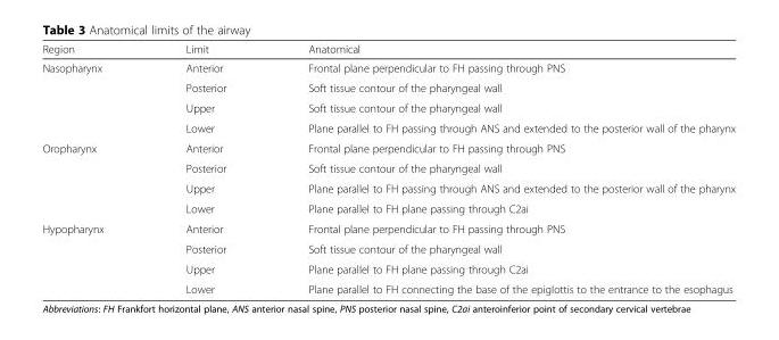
<table><thead><tr><td>Region</td><td>Limit</td><td>Anatomical</td></tr></thead><tbody><tr><td rowspan="4">Nasopharynx</td><td>Anterior</td><td>Frontal plane perpendicular to FH passing through PNS</td></tr><tr><td>Posterior</td><td>Soft tissue contour of the pharyngeal wall</td></tr><tr><td>Upper</td><td>Soft tissue contour of the pharyngeal wall</td></tr><tr><td>Lower</td><td>Plane parallel to FH passing through ANS and extended to the posterior wall of the pharynx</td></tr><tr><td rowspan="4">Oropharynx</td><td>Anterior</td><td>Frontal plane perpendicular to FH passing through PNS</td></tr><tr><td>Posterior</td><td>Soft tissue contour of the pharyngeal wall</td></tr><tr><td>Upper</td><td>Plane parallel to FH passing through ANS and extended to the posterior wall of the pharynx</td></tr><tr><td>Lower</td><td>Plane parallel to FH plane passing through C2ai</td></tr><tr><td rowspan="4">Hypopharynx</td><td>Anterior</td><td>Frontal plane perpendicular to FH passing through PNS</td></tr><tr><td>Posterior</td><td>Soft tissue contour of the pharyngeal wall</td></tr><tr><td>Upper</td><td>Plane parallel to FH plane passing through C2ai</td></tr><tr><td>Lower</td><td>Plane parallel to FH connecting the base of the epiglottis to the entrance to the esophagus</td></tr></tbody></table>